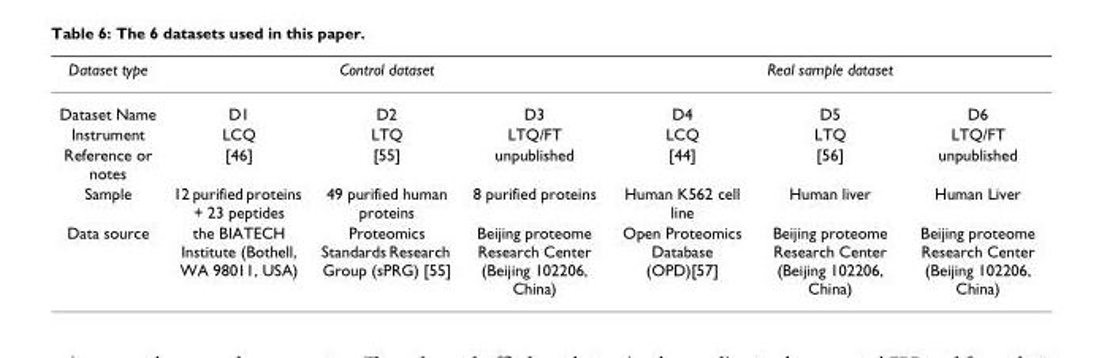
<table><thead><tr><td rowspan="2">Dataset type Dataset Name</td><td colspan="3">Control dataset</td><td colspan="3">Real sample dataset</td></tr><tr><td>D1</td><td>D2</td><td>D3</td><td>D4</td><td>D5</td><td>D6</td></tr></thead><tbody><tr><td>Instrument</td><td>LCQ</td><td>LTQ</td><td>LTQ/FT</td><td>LCQ</td><td>LTQ</td><td>LTQ/FT</td></tr><tr><td>Reference or notes</td><td>[46]</td><td>[55]</td><td>unpublished</td><td>[44]</td><td>[56]</td><td>unpublished</td></tr><tr><td>Sample</td><td>12 purified proteins + 23 peptides</td><td>49 purified human proteins</td><td>8 purified proteins</td><td>Human K562 cell line</td><td>Human liver</td><td>Human Liver</td></tr><tr><td>Data source</td><td>the BIATECH Institute (Bothell, WA 98011, USA)</td><td>Proteomics Standards Research Group (sPRG) [55]</td><td>Beijing proteome Research Center (Beijing 102206, China)</td><td>Open Proteomics Database (OPD)[57]</td><td>Beijing proteome Research Center (Beijing 102206, China)</td><td>Beijing proteome Research Center (Beijing 102206, China)</td></tr></tbody></table>